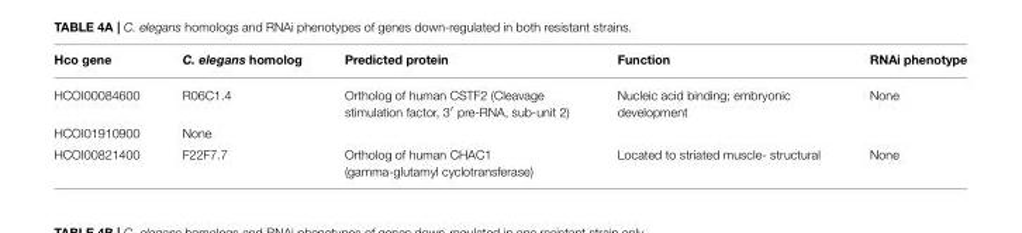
<table><thead><tr><td>Hco gene</td><td>C. elegans homolog</td><td>Predicted protein</td><td>Function</td><td>RNAi phenotype</td></tr></thead><tbody><tr><td>HCOI00084600</td><td>R06C1.4</td><td>Ortholog of human CSTF2 (Cleavage stimulation factor, 3′ pre-RNA, sub-unit 2)</td><td>Nucleic acid binding; embryonic development</td><td>None</td></tr><tr><td>HCOI01910900</td><td>None</td><td></td><td></td><td></td></tr><tr><td>HCOI00821400</td><td>F22F7.7</td><td>Ortholog of human CHAC1 (gamma-glutamyl cyclotransferase)</td><td>Located to striated muscle- structural</td><td>None</td></tr></tbody></table>